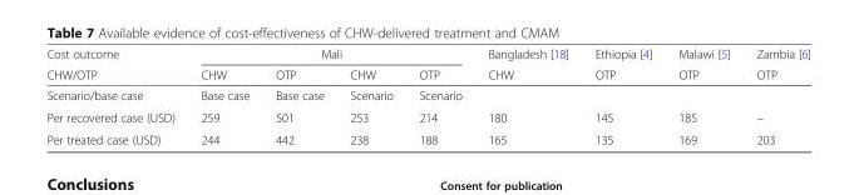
<table><thead><tr><td rowspan="2">Cost outcome CHW/OTP</td><td colspan="4">Mali</td><td rowspan="2">Bangladesh [18] CHW</td><td rowspan="2">Ethiopia [4] OTP</td><td rowspan="2">Malawi [5] OTP</td><td rowspan="2">Zambia [6] OTP</td></tr><tr><td>CHW</td><td>OTP</td><td>CHW</td><td>OTP</td></tr></thead><tbody><tr><td>Scenario/base case</td><td>Base case</td><td>Base case</td><td>Scenario</td><td>Scenario</td><td></td><td></td><td></td><td></td></tr><tr><td>Per recovered case (USD)</td><td>259</td><td>501</td><td>253</td><td>214</td><td>180</td><td>145</td><td>185</td><td>–</td></tr><tr><td>Per treated case (USD)</td><td>244</td><td>442</td><td>238</td><td>188</td><td>165</td><td>135</td><td>169</td><td>203</td></tr></tbody></table>